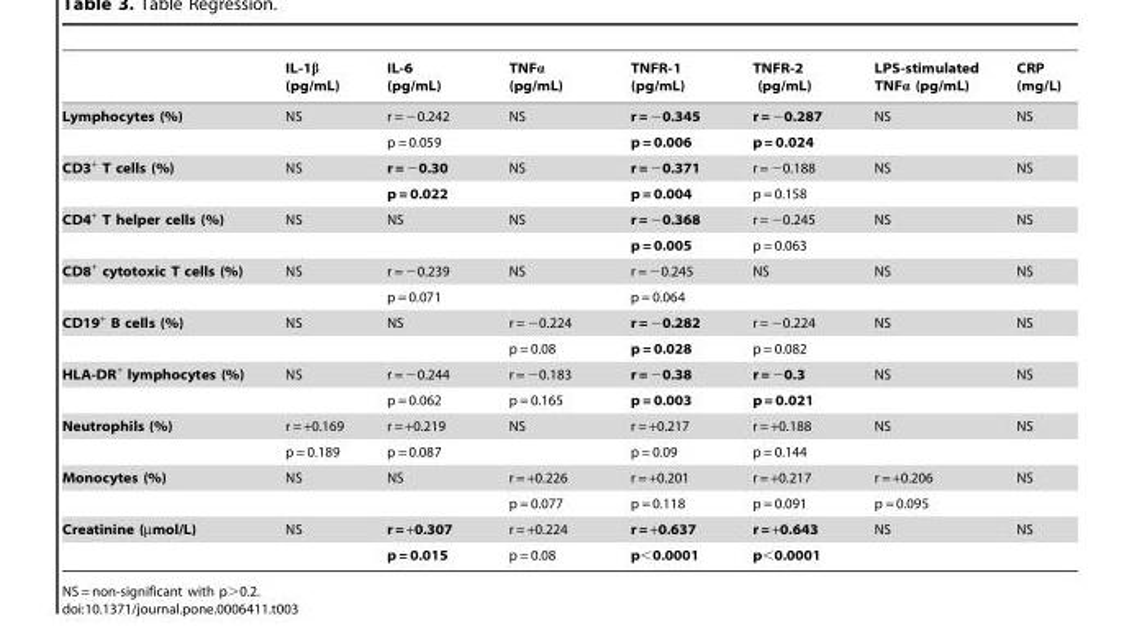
<table><thead><tr><td></td><td>IL-1β (pg/mL)</td><td>IL-6 (pg/mL)</td><td>TNFα (pg/mL)</td><td>TNFR-1 (pg/mL)</td><td>TNFR-2 (pg/mL)</td><td>LPS-stimulated TNFα (pg/mL)</td><td>CRP (mg/L)</td></tr></thead><tbody><tr><td rowspan="2">Lymphocytes (%)</td><td>NS</td><td>r = −0.242</td><td>NS</td><td>r = −0.345</td><td>r = −0.287</td><td>NS</td><td>NS</td></tr><tr><td></td><td>p = 0.059</td><td></td><td>p = 0.006</td><td>p = 0.024</td><td></td><td></td></tr><tr><td rowspan="2">CD3<sup>+</sup> T cells (%)</td><td>NS</td><td>r = −0.30</td><td>NS</td><td>r = −0.371</td><td>r = −0.188</td><td>NS</td><td>NS</td></tr><tr><td></td><td>p = 0.022</td><td></td><td>p = 0.004</td><td>p = 0.158</td><td></td><td></td></tr><tr><td rowspan="2">CD4<sup>+</sup> T helper cells (%)</td><td>NS</td><td>NS</td><td>NS</td><td>r = −0.368</td><td>r = −0.245</td><td>NS</td><td>NS</td></tr><tr><td></td><td></td><td></td><td>p = 0.005</td><td>p = 0.063</td><td></td><td></td></tr><tr><td rowspan="2">CD8<sup>+</sup> cytotoxic T cells (%)</td><td>NS</td><td>r = −0.239</td><td>NS</td><td>r = −0.245</td><td>NS</td><td>NS</td><td>NS</td></tr><tr><td></td><td>p = 0.071</td><td></td><td>p = 0.064</td><td></td><td></td><td></td></tr><tr><td rowspan="2">CD19<sup>+</sup> B cells (%)</td><td>NS</td><td>NS</td><td>r = −0.224</td><td>r = −0.282</td><td>r = −0.224</td><td>NS</td><td>NS</td></tr><tr><td></td><td></td><td>p = 0.08</td><td>p = 0.028</td><td>p = 0.082</td><td></td><td></td></tr><tr><td rowspan="2">HLA-DR<sup>+</sup> lymphocytes (%)</td><td>NS</td><td>r = −0.244</td><td>r = −0.183</td><td>r = −0.38</td><td>r = −0.3</td><td>NS</td><td>NS</td></tr><tr><td></td><td>p = 0.062</td><td>p = 0.165</td><td>p = 0.003</td><td>p = 0.021</td><td></td><td></td></tr><tr><td rowspan="2">Neutrophils (%)</td><td>r = +0.169</td><td>r = +0.219</td><td>NS</td><td>r = +0.217</td><td>r = +0.188</td><td>NS</td><td>NS</td></tr><tr><td>p = 0.189</td><td>p = 0.087</td><td></td><td>p = 0.09</td><td>p = 0.144</td><td></td><td></td></tr><tr><td rowspan="2">Monocytes (%)</td><td>NS</td><td>NS</td><td>r = +0.226</td><td>r = +0.201</td><td>r = +0.217</td><td>r = +0.206</td><td>NS</td></tr><tr><td></td><td></td><td>p = 0.077</td><td>p = 0.118</td><td>p = 0.091</td><td>p = 0.095</td><td></td></tr><tr><td rowspan="2">Creatinine (µmol/L)</td><td>NS</td><td>r = +0.307</td><td>r = +0.224</td><td>r = +0.637</td><td>r = +0.643</td><td>NS</td><td>NS</td></tr><tr><td></td><td>p = 0.015</td><td>p = 0.08</td><td>p&lt;0.0001</td><td>p&lt;0.0001</td><td></td><td></td></tr></tbody></table>